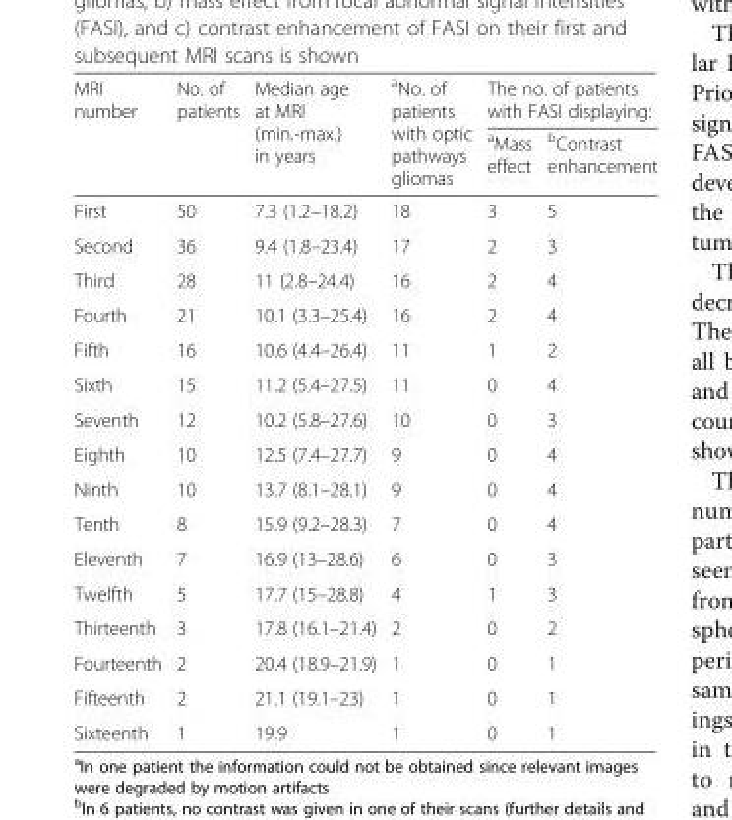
<table><thead><tr><td rowspan="2">MRI number</td><td rowspan="2">No. of patients</td><td rowspan="2">Median age at MRI (min.-max.) in years</td><td rowspan="2"><sup>a</sup>No. of patients with optic pathways gliomas</td><td colspan="2">The no. of patients with FASI displaying:</td></tr><tr><td><sup>a</sup>Mass effect</td><td><sup>b</sup>Contrast enhancement</td></tr></thead><tbody><tr><td>First</td><td>50</td><td>7.3 (1.2–18.2)</td><td>18</td><td>3</td><td>5</td></tr><tr><td>Second</td><td>36</td><td>9.4 (1.8–23.4)</td><td>17</td><td>2</td><td>3</td></tr><tr><td>Third</td><td>28</td><td>11 (2.8–24.4)</td><td>16</td><td>2</td><td>4</td></tr><tr><td>Fourth</td><td>21</td><td>10.1 (3.3–25.4)</td><td>16</td><td>2</td><td>4</td></tr><tr><td>Fifth</td><td>16</td><td>10.6 (4.4–26.4)</td><td>11</td><td>1</td><td>2</td></tr><tr><td>Sixth</td><td>15</td><td>11.2 (5.4–27.5)</td><td>11</td><td>0</td><td>4</td></tr><tr><td>Seventh</td><td>12</td><td>10.2 (5.8–27.6)</td><td>10</td><td>0</td><td>3</td></tr><tr><td>Eighth</td><td>10</td><td>12.5 (7.4–27.7)</td><td>9</td><td>0</td><td>4</td></tr><tr><td>Ninth</td><td>10</td><td>13.7 (8.1–28.1)</td><td>9</td><td>0</td><td>4</td></tr><tr><td>Tenth</td><td>8</td><td>15.9 (9.2–28.3)</td><td>7</td><td>0</td><td>4</td></tr><tr><td>Eleventh</td><td>7</td><td>16.9 (13–28.6)</td><td>6</td><td>0</td><td>3</td></tr><tr><td>Twelfth</td><td>5</td><td>17.7 (15–28.8)</td><td>4</td><td>1</td><td>3</td></tr><tr><td>Thirteenth</td><td>3</td><td>17.8 (16.1–21.4)</td><td>2</td><td>0</td><td>2</td></tr><tr><td>Fourteenth</td><td>2</td><td>20.4 (18.9–21.9)</td><td>1</td><td>0</td><td>1</td></tr><tr><td>Fifteenth</td><td>2</td><td>21.1 (19.1–23)</td><td>1</td><td>0</td><td>1</td></tr><tr><td>Sixteenth</td><td>1</td><td>19.9</td><td>1</td><td>0</td><td>1</td></tr></tbody></table>